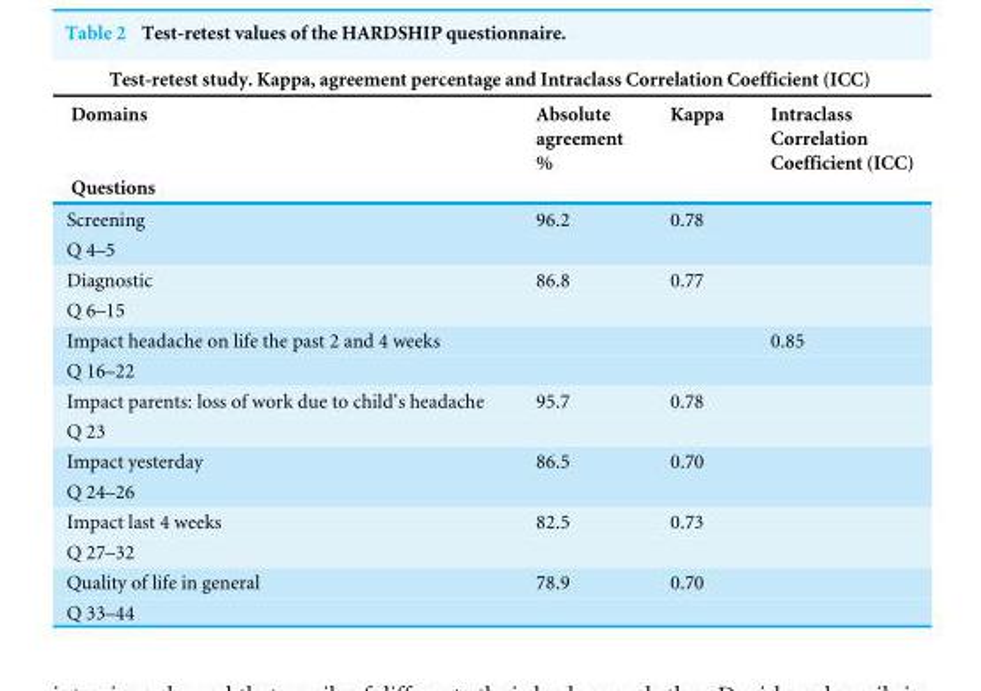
<table><thead><tr><td colspan="4">Test-retest study. Kappa, agreement percentage and Intraclass Correlation Coefficient (ICC)</td></tr><tr><td rowspan="2">Domains Questions</td><td rowspan="2">Absolute agreement %</td><td rowspan="2">Kappa</td><td rowspan="2">Intraclass Correlation Coefficient (ICC)</td></tr><tr></tr></thead><tbody><tr><td>Screening</td><td>96.2</td><td>0.78</td><td></td></tr><tr><td colspan="4">Q 4–5</td></tr><tr><td>Diagnostic</td><td>86.8</td><td>0.77</td><td></td></tr><tr><td colspan="4">Q 6–15</td></tr><tr><td>Impact headache on life the past 2 and 4 weeks</td><td></td><td></td><td>0.85</td></tr><tr><td colspan="4">Q 16–22</td></tr><tr><td>Impact parents: loss of work due to child’s headache</td><td>95.7</td><td>0.78</td><td></td></tr><tr><td colspan="4">Q 23</td></tr><tr><td>Impact yesterday</td><td>86.5</td><td>0.70</td><td></td></tr><tr><td colspan="4">Q 24–26</td></tr><tr><td>Impact last 4 weeks</td><td>82.5</td><td>0.73</td><td></td></tr><tr><td colspan="4">Q 27–32</td></tr><tr><td>Quality of life in general</td><td>78.9</td><td>0.70</td><td></td></tr><tr><td>Q 33–44</td><td></td><td></td><td></td></tr></tbody></table>